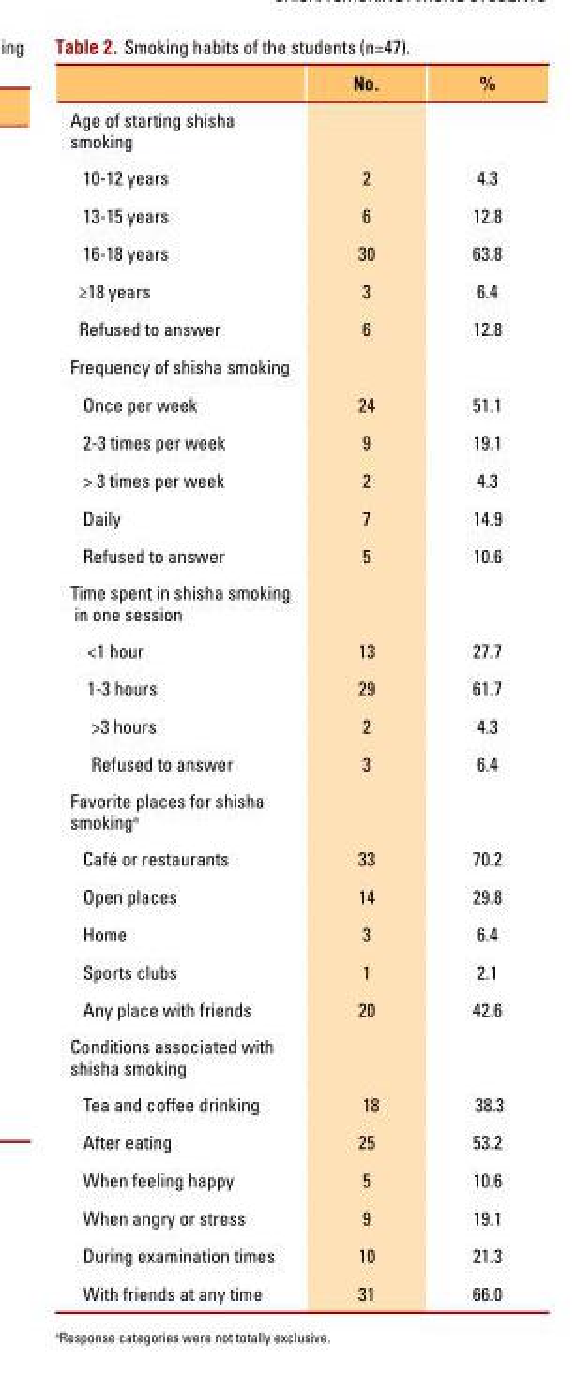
<table><thead><tr><td></td><td>No.</td><td>%</td></tr></thead><tbody><tr><td colspan="3">Age of starting shisha smoking</td></tr><tr><td>10-12 years</td><td>2</td><td>4.3</td></tr><tr><td>13-15 years</td><td>6</td><td>12.8</td></tr><tr><td>16-18 years</td><td>30</td><td>63.8</td></tr><tr><td>≥18 years</td><td>3</td><td>6.4</td></tr><tr><td>Refused to answer</td><td>6</td><td>12.8</td></tr><tr><td>Frequency of shisha smoking Once per week</td><td>24</td><td>51.1</td></tr><tr><td>2-3 times per week</td><td>9</td><td>19.1</td></tr><tr><td>&gt; 3 times per week</td><td>2</td><td>4.3</td></tr><tr><td>Daily</td><td>7</td><td>14.9</td></tr><tr><td>Refused to answer</td><td>5</td><td>10.6</td></tr><tr><td colspan="3">Time spent in shisha smoking in one session</td></tr><tr><td>&lt;1 hour</td><td>13</td><td>27.7</td></tr><tr><td>1-3 hours</td><td>29</td><td>61.7</td></tr><tr><td>&gt;3 hours</td><td>2</td><td>4.3</td></tr><tr><td>Refused to answer</td><td>3</td><td>6.4</td></tr><tr><td colspan="3">Favorite places for shisha smoking<sup>a</sup></td></tr><tr><td>Café or restaurants</td><td>33</td><td>70.2</td></tr><tr><td>Open places</td><td>14</td><td>29.8</td></tr><tr><td>Home</td><td>3</td><td>6.4</td></tr><tr><td>Sports clubs</td><td>1</td><td>2.1</td></tr><tr><td>Any place with friends</td><td>20</td><td>42.6</td></tr><tr><td colspan="3">Conditions associated with shisha smoking</td></tr><tr><td>Tea and coffee drinking</td><td>18</td><td>38.3</td></tr><tr><td>After eating</td><td>25</td><td>53.2</td></tr><tr><td>When feeling happy</td><td>5</td><td>10.6</td></tr><tr><td>When angry or stress</td><td>9</td><td>19.1</td></tr><tr><td>During examination times</td><td>10</td><td>21.3</td></tr><tr><td>With friends at any time</td><td>31</td><td>66.0</td></tr></tbody></table>